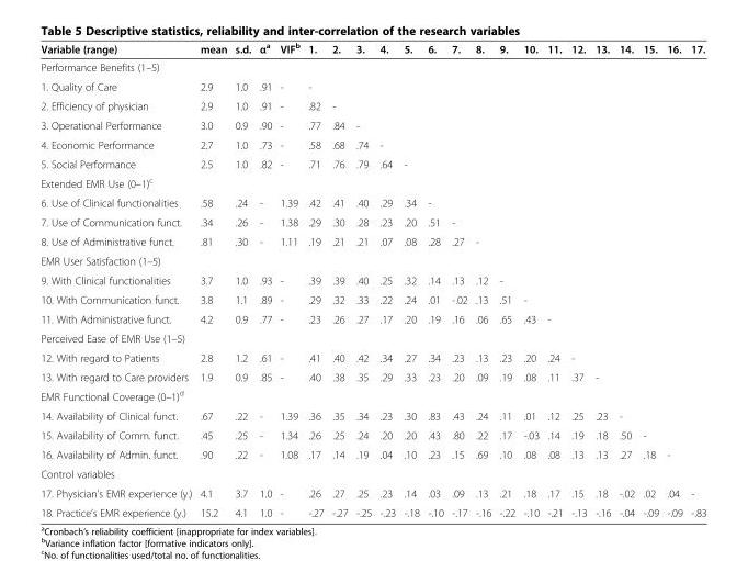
<table><thead><tr><td>Variable (range)</td><td>mean</td><td>s.d.</td><td>α<sup>a</sup></td><td>VIF<sup>b</sup></td><td>1.</td><td>2.</td><td>3.</td><td>4.</td><td>5.</td><td>6.</td><td>7.</td><td>8.</td><td>9.</td><td>10.</td><td>11.</td><td>12.</td><td>13.</td><td>14.</td><td>15.</td><td>16.</td><td>17.</td></tr></thead><tbody><tr><td colspan="10">Performance Benefits (1–5)</td><td rowspan="6"></td><td rowspan="6"></td><td rowspan="6"></td><td rowspan="6"></td><td rowspan="6"></td><td rowspan="6"></td><td rowspan="6"></td><td rowspan="6"></td><td rowspan="6"></td><td rowspan="6"></td><td rowspan="6"></td><td rowspan="6"></td></tr><tr><td>1. Quality of Care</td><td>2.9</td><td>1.0</td><td>.91</td><td>-</td><td>-</td><td></td><td></td><td></td><td></td></tr><tr><td>2. Efficiency of physician</td><td>2.9</td><td>1.0</td><td>.91</td><td>-</td><td>.82</td><td>-</td><td></td><td></td><td></td></tr><tr><td>3. Operational Performance</td><td>3.0</td><td>0.9</td><td>.90</td><td>-</td><td>.77</td><td>.84</td><td>-</td><td></td><td></td></tr><tr><td>4. Economic Performance</td><td>2.7</td><td>1.0</td><td>.73</td><td>-</td><td>.58</td><td>.68</td><td>.74</td><td>-</td><td></td></tr><tr><td>5. Social Performance</td><td>2.5</td><td>1.0</td><td>.82</td><td>-</td><td>.71</td><td>.76</td><td>.79</td><td>.64</td><td>-</td></tr><tr><td colspan="13">Extended EMR Use (0–1)<sup>c</sup></td><td rowspan="4"></td><td rowspan="4"></td><td rowspan="4"></td><td rowspan="4"></td><td rowspan="4"></td><td rowspan="4"></td><td rowspan="4"></td><td rowspan="4"></td><td rowspan="4"></td></tr><tr><td>6. Use of Clinical functionalities</td><td>.58</td><td>.24</td><td>-</td><td>1.39</td><td>.42</td><td>.41</td><td>.40</td><td>.29</td><td>.34</td><td>-</td><td></td><td></td></tr><tr><td>7. Use of Communication funct.</td><td>.34</td><td>.26</td><td>-</td><td>1.38</td><td>.29</td><td>.30</td><td>.28</td><td>.23</td><td>.20</td><td>.51</td><td>-</td><td></td></tr><tr><td>8. Use of Administrative funct.</td><td>.81</td><td>.30</td><td>-</td><td>1.11</td><td>.19</td><td>.21</td><td>.21</td><td>.07</td><td>.08</td><td>.28</td><td>.27</td><td>-</td></tr><tr><td colspan="16">EMR User Satisfaction (1–5)</td><td rowspan="4"></td><td rowspan="4"></td><td rowspan="4"></td><td rowspan="4"></td><td rowspan="4"></td><td rowspan="4"></td></tr><tr><td>9. With Clinical functionalities</td><td>3.7</td><td>1.0</td><td>.93</td><td>-</td><td>.39</td><td>.39</td><td>.40</td><td>.25</td><td>.32</td><td>.14</td><td>.13</td><td>.12</td><td>-</td><td></td><td></td></tr><tr><td>10. With Communication funct.</td><td>3.8</td><td>1.1</td><td>.89</td><td>-</td><td>.29</td><td>.32</td><td>.33</td><td>.22</td><td>.24</td><td>.01</td><td>-.02</td><td>.13</td><td>.51</td><td>-</td><td></td></tr><tr><td>11. With Administrative funct.</td><td>4.2</td><td>0.9</td><td>.77</td><td>-</td><td>.23</td><td>.26</td><td>.27</td><td>.17</td><td>.20</td><td>.19</td><td>.16</td><td>.06</td><td>.65</td><td>.43</td><td>-</td></tr><tr><td colspan="18">Perceived Ease of EMR Use (1–5)</td><td rowspan="3"></td><td rowspan="3"></td><td rowspan="3"></td><td rowspan="3"></td></tr><tr><td>12. With regard to Patients</td><td>2.8</td><td>1.2</td><td>.61</td><td>-</td><td>.41</td><td>.40</td><td>.42</td><td>.34</td><td>.27</td><td>.34</td><td>.23</td><td>.13</td><td>.23</td><td>.20</td><td>.24</td><td>-</td><td></td></tr><tr><td>13. With regard to Care providers</td><td>1.9</td><td>0.9</td><td>.85</td><td>-</td><td>.40</td><td>.38</td><td>.35</td><td>.29</td><td>.33</td><td>.23</td><td>.20</td><td>.09</td><td>.19</td><td>.08</td><td>.11</td><td>.37</td><td>-</td></tr><tr><td colspan="21">EMR Functional Coverage (0–1)<sup>d</sup></td><td rowspan="4"></td></tr><tr><td>14. Availability of Clinical funct.</td><td>.67</td><td>.22</td><td>-</td><td>1.39</td><td>.36</td><td>.35</td><td>.34</td><td>.23</td><td>.30</td><td>.83</td><td>.43</td><td>.24</td><td>.11</td><td>.01</td><td>.12</td><td>.25</td><td>.23</td><td>-</td><td></td><td></td></tr><tr><td>15. Availability of Comm. funct.</td><td>.45</td><td>.25</td><td>-</td><td>1.34</td><td>.26</td><td>.25</td><td>.24</td><td>.20</td><td>.20</td><td>.43</td><td>.80</td><td>.22</td><td>.17</td><td>-.03</td><td>.14</td><td>.19</td><td>.18</td><td>.50</td><td>-</td><td></td></tr><tr><td>16. Availability of Admin. funct.</td><td>.90</td><td>.22</td><td>-</td><td>1.08</td><td>.17</td><td>.14</td><td>.19</td><td>.04</td><td>.10</td><td>.23</td><td>.15</td><td>.69</td><td>.10</td><td>.08</td><td>.08</td><td>.13</td><td>.13</td><td>.27</td><td>.18</td><td>-</td></tr><tr><td colspan="22">Control variables</td></tr><tr><td>17. Physician’s EMR experience (y.)</td><td>4.1</td><td>3.7</td><td>1.0</td><td>-</td><td>.26</td><td>.27</td><td>.25</td><td>.23</td><td>.14</td><td>.03</td><td>.09</td><td>.13</td><td>.21</td><td>.18</td><td>.17</td><td>.15</td><td>.18</td><td>-.02</td><td>.02</td><td>.04</td><td>-</td></tr><tr><td>18. Practice’s EMR experience (y.)</td><td>15.2</td><td>4.1</td><td>1.0</td><td>-</td><td>-.27</td><td>-.27</td><td>-.25</td><td>-.23</td><td>-.18</td><td>-.10</td><td>-.17</td><td>-.16</td><td>-.22</td><td>-.10</td><td>-.21</td><td>-.13</td><td>-.16</td><td>-.04</td><td>-.09</td><td>-.09</td><td>-.83</td></tr></tbody></table>